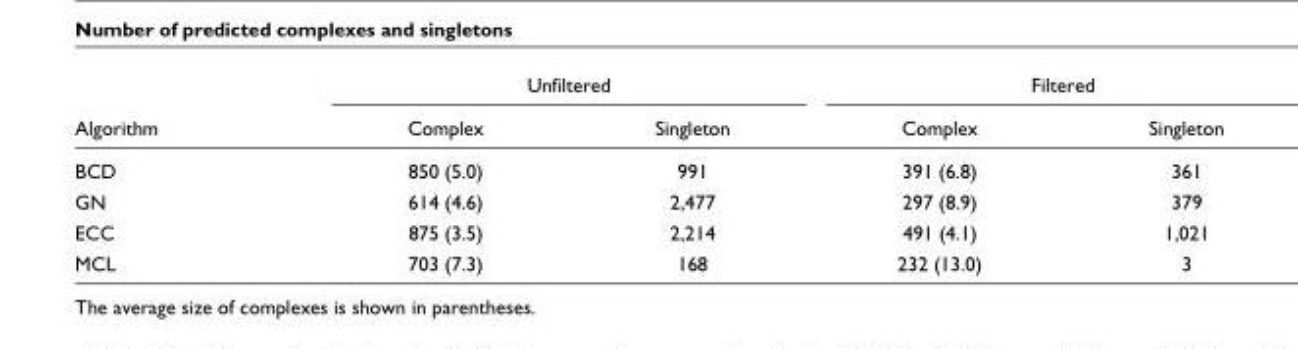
<table><thead><tr><td rowspan="2">Algorithm</td><td colspan="2">Unfiltered</td><td colspan="2">Filtered</td></tr><tr><td>Complex</td><td>Singleton</td><td>Complex</td><td>Singleton</td></tr></thead><tbody><tr><td>BCD</td><td>850 (5.0)</td><td>991</td><td>391 (6.8)</td><td>361</td></tr><tr><td>GN</td><td>614 (4.6)</td><td>2,477</td><td>297 (8.9)</td><td>379</td></tr><tr><td>ECC</td><td>875 (3.5)</td><td>2,214</td><td>491 (4.1)</td><td>1,021</td></tr><tr><td>MCL</td><td>703 (7.3)</td><td>168</td><td>232 (13.0)</td><td>3</td></tr></tbody></table>